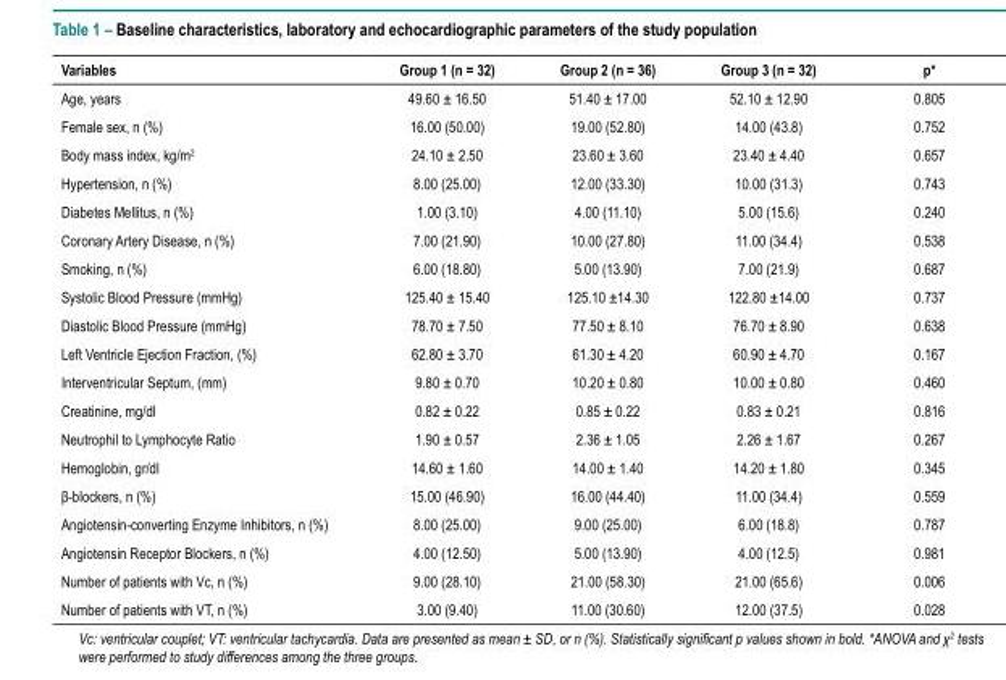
<table><thead><tr><td>Variables</td><td>Group 1 (n = 32)</td><td>Group 2 (n = 36)</td><td>Group 3 (n = 32)</td><td>p*</td></tr></thead><tbody><tr><td>Age, years</td><td>49.60 ± 16.50</td><td>51.40 ± 17.00</td><td>52.10 ± 12.90</td><td>0.805</td></tr><tr><td>Female sex, n (%)</td><td>16.00 (50.00)</td><td>19.00 (52.80)</td><td>14.00 (43.8)</td><td>0.752</td></tr><tr><td>Body mass index, kg/m<sup>2</sup></td><td>24.10 ± 2.50</td><td>23.60 ± 3.60</td><td>23.40 ± 4.40</td><td>0.657</td></tr><tr><td>Hypertension, n (%)</td><td>8.00 (25.00)</td><td>12.00 (33.30)</td><td>10.00 (31.3)</td><td>0.743</td></tr><tr><td>Diabetes Mellitus, n (%)</td><td>1.00 (3.10)</td><td>4.00 (11.10)</td><td>5.00 (15.6)</td><td>0.240</td></tr><tr><td>Coronary Artery Disease, n (%)</td><td>7.00 (21.90)</td><td>10.00 (27.80)</td><td>11.00 (34.4)</td><td>0.538</td></tr><tr><td>Smoking, n (%)</td><td>6.00 (18.80)</td><td>5.00 (13.90)</td><td>7.00 (21.9)</td><td>0.687</td></tr><tr><td>Systolic Blood Pressure (mmHg)</td><td>125.40 ± 15.40</td><td>125.10 ±14.30</td><td>122.80 ±14.00</td><td>0.737</td></tr><tr><td>Diastolic Blood Pressure (mmHg)</td><td>78.70 ± 7.50</td><td>77.50 ± 8.10</td><td>76.70 ± 8.90</td><td>0.638</td></tr><tr><td>Left Ventricle Ejection Fraction, (%)</td><td>62.80 ± 3.70</td><td>61.30 ± 4.20</td><td>60.90 ± 4.70</td><td>0.167</td></tr><tr><td>Interventricular Septum, (mm)</td><td>9.80 ± 0.70</td><td>10.20 ± 0.80</td><td>10.00 ± 0.80</td><td>0.460</td></tr><tr><td>Creatinine, mg/dl</td><td>0.82 ± 0.22</td><td>0.85 ± 0.22</td><td>0.83 ± 0.21</td><td>0.816</td></tr><tr><td>Neutrophil to Lymphocyte Ratio</td><td>1.90 ± 0.57</td><td>2.36 ± 1.05</td><td>2.26 ± 1.67</td><td>0.267</td></tr><tr><td>Hemoglobin, gr/dl</td><td>14.60 ± 1.60</td><td>14.00 ± 1.40</td><td>14.20 ± 1.80</td><td>0.345</td></tr><tr><td>β-blockers, n (%)</td><td>15.00 (46.90)</td><td>16.00 (44.40)</td><td>11.00 (34.4)</td><td>0.559</td></tr><tr><td>Angiotensin-converting Enzyme Inhibitors, n (%)</td><td>8.00 (25.00)</td><td>9.00 (25.00)</td><td>6.00 (18.8)</td><td>0.787</td></tr><tr><td>Angiotensin Receptor Blockers, n (%)</td><td>4.00 (12.50)</td><td>5.00 (13.90)</td><td>4.00 (12.5)</td><td>0.981</td></tr><tr><td>Number of patients with Vc, n (%)</td><td>9.00 (28.10)</td><td>21.00 (58.30)</td><td>21.00 (65.6)</td><td>0.006</td></tr><tr><td>Number of patients with VT, n (%)</td><td>3.00 (9.40)</td><td>11.00 (30.60)</td><td>12.00 (37.5)</td><td>0.028</td></tr></tbody></table>